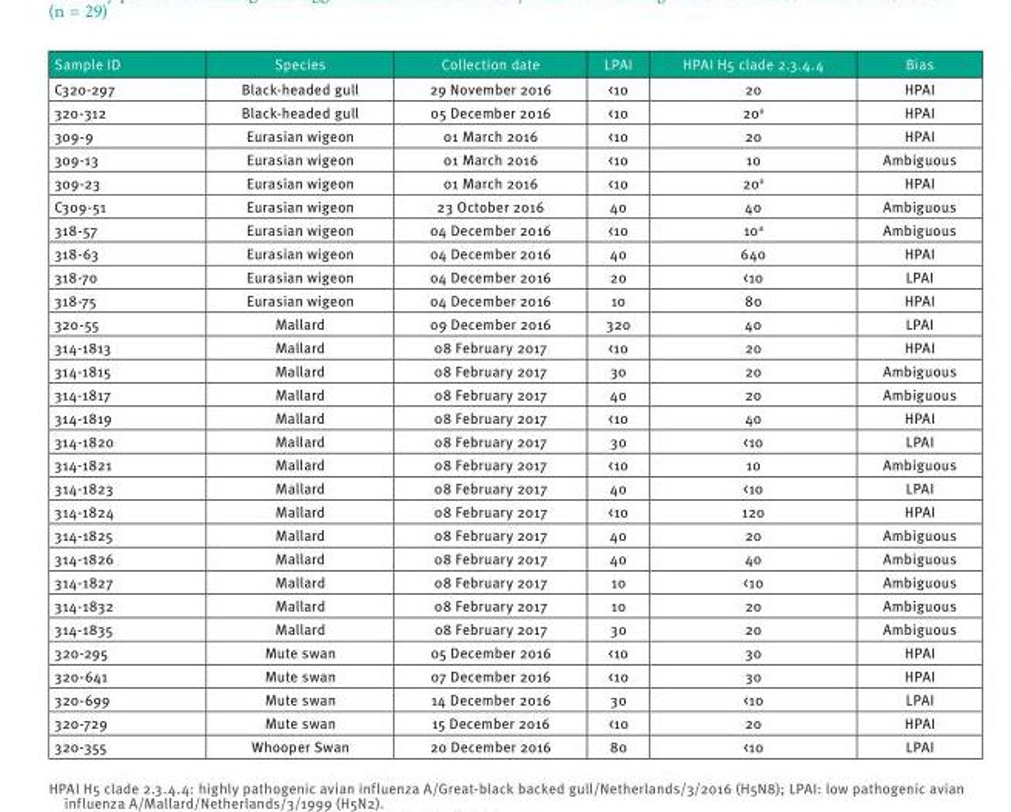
<table><thead><tr><td>Sample ID</td><td>Species</td><td>Collection date</td><td>LPAI</td><td>HPAI H5 clade 2.3.4.4</td><td>Bias</td></tr></thead><tbody><tr><td>C320-297</td><td>Black-headed gull</td><td>29 November 2016</td><td>&lt;10</td><td>20</td><td>HPAI</td></tr><tr><td>320-312</td><td>Black-headed gull</td><td>05 December 2016</td><td>&lt;10</td><td>20<sup>a</sup></td><td>HPAI</td></tr><tr><td>309-9</td><td>Eurasian wigeon</td><td>01 March 2016</td><td>&lt;10</td><td>20</td><td>HPAI</td></tr><tr><td>309-13</td><td>Eurasian wigeon</td><td>01 March 2016</td><td>&lt;10</td><td>10</td><td>Ambiguous</td></tr><tr><td>309-23</td><td>Eurasian wigeon</td><td>01 March 2016</td><td>&lt;10</td><td>20<sup>a</sup></td><td>HPAI</td></tr><tr><td>C309-51</td><td>Eurasian wigeon</td><td>23 October 2016</td><td>40</td><td>40</td><td>Ambiguous</td></tr><tr><td>318-57</td><td>Eurasian wigeon</td><td>04 December 2016</td><td>&lt;10</td><td>10<sup>a</sup></td><td>Ambiguous</td></tr><tr><td>318-63</td><td>Eurasian wigeon</td><td>04 December 2016</td><td>40</td><td>640</td><td>HPAI</td></tr><tr><td>318-70</td><td>Eurasian wigeon</td><td>04 December 2016</td><td>20</td><td>&lt;10</td><td>LPAI</td></tr><tr><td>318-75</td><td>Eurasian wigeon</td><td>04 December 2016</td><td>10</td><td>80</td><td>HPAI</td></tr><tr><td>320-55</td><td>Mallard</td><td>09 December 2016</td><td>320</td><td>40</td><td>LPAI</td></tr><tr><td>314-1813</td><td>Mallard</td><td>08 February 2017</td><td>&lt;10</td><td>20</td><td>HPAI</td></tr><tr><td>314-1815</td><td>Mallard</td><td>08 February 2017</td><td>30</td><td>20</td><td>Ambiguous</td></tr><tr><td>314-1817</td><td>Mallard</td><td>08 February 2017</td><td>40</td><td>20</td><td>Ambiguous</td></tr><tr><td>314-1819</td><td>Mallard</td><td>08 February 2017</td><td>&lt;10</td><td>40</td><td>HPAI</td></tr><tr><td>314-1820</td><td>Mallard</td><td>08 February 2017</td><td>30</td><td>&lt;10</td><td>LPAI</td></tr><tr><td>314-1821</td><td>Mallard</td><td>08 February 2017</td><td>&lt;10</td><td>10</td><td>Ambiguous</td></tr><tr><td>314-1823</td><td>Mallard</td><td>08 February 2017</td><td>40</td><td>&lt;10</td><td>LPAI</td></tr><tr><td>314-1824</td><td>Mallard</td><td>08 February 2017</td><td>&lt;10</td><td>120</td><td>HPAI</td></tr><tr><td>314-1825</td><td>Mallard</td><td>08 February 2017</td><td>40</td><td>20</td><td>Ambiguous</td></tr><tr><td>314-1826</td><td>Mallard</td><td>08 February 2017</td><td>40</td><td>40</td><td>Ambiguous</td></tr><tr><td>314-1827</td><td>Mallard</td><td>08 February 2017</td><td>10</td><td>&lt;10</td><td>Ambiguous</td></tr><tr><td>314-1832</td><td>Mallard</td><td>08 February 2017</td><td>10</td><td>20</td><td>Ambiguous</td></tr><tr><td>314-1835</td><td>Mallard</td><td>08 February 2017</td><td>30</td><td>20</td><td>Ambiguous</td></tr><tr><td>320-295</td><td>Mute swan</td><td>05 December 2016</td><td>&lt;10</td><td>30</td><td>HPAI</td></tr><tr><td>320-641</td><td>Mute swan</td><td>07 December 2016</td><td>&lt;10</td><td>30</td><td>HPAI</td></tr><tr><td>320-699</td><td>Mute swan</td><td>14 December 2016</td><td>30</td><td>&lt;10</td><td>LPAI</td></tr><tr><td>320-729</td><td>Mute swan</td><td>15 December 2016</td><td>&lt;10</td><td>20</td><td>HPAI</td></tr><tr><td>320-355</td><td>Whooper Swan</td><td>20 December 2016</td><td>80</td><td>&lt;10</td><td>LPAI</td></tr></tbody></table>